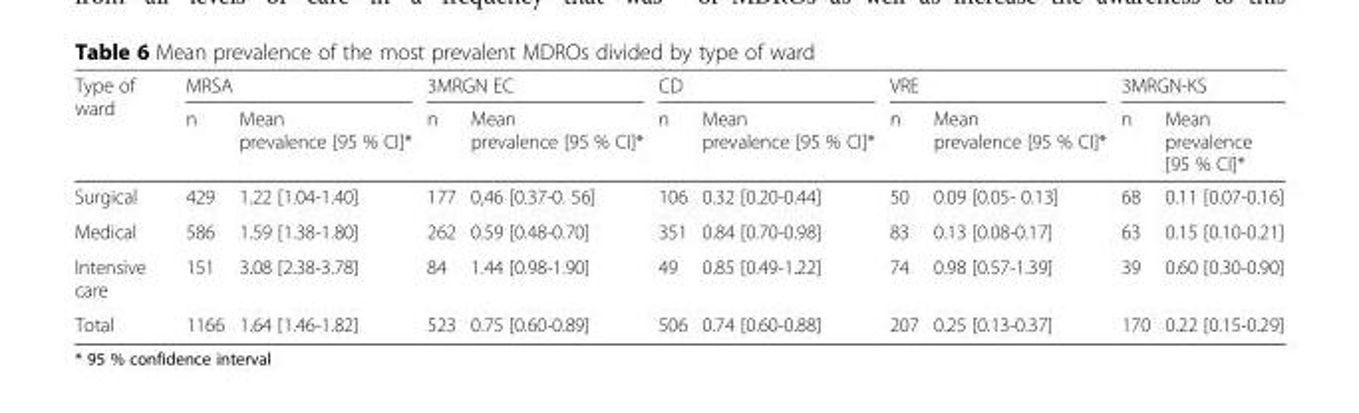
<table><thead><tr><td rowspan="2">Type of ward</td><td colspan="2">MRSA</td><td colspan="2">3MRGN EC</td><td colspan="2">CD</td><td colspan="2">VRE</td><td colspan="2">3MRGN-KS</td></tr><tr><td>n</td><td>Mean prevalence [95 % CI]*</td><td>n</td><td>Mean prevalence [95 % CI]*</td><td>n</td><td>Mean prevalence [95 % CI]*</td><td>n</td><td>Mean prevalence [95 % CI]*</td><td>n</td><td>Mean prevalence [95 % CI]*</td></tr></thead><tbody><tr><td>Surgical</td><td>429</td><td>1.22 [1.04-1.40]</td><td>177</td><td>0,46 [0.37-0. 56]</td><td>106</td><td>0.32 [0.20-0.44]</td><td>50</td><td>0.09 [0.05- 0.13]</td><td>68</td><td>0.11 [0.07-0.16]</td></tr><tr><td>Medical</td><td>586</td><td>1.59 [1.38-1.80]</td><td>262</td><td>0.59 [0.48-0.70]</td><td>351</td><td>0.84 [0.70-0.98]</td><td>83</td><td>0.13 [0.08-0.17]</td><td>63</td><td>0.15 [0.10-0.21]</td></tr><tr><td>Intensive care</td><td>151</td><td>3.08 [2.38-3.78]</td><td>84</td><td>1.44 [0.98-1.90]</td><td>49</td><td>0.85 [0.49-1.22]</td><td>74</td><td>0.98 [0.57-1.39]</td><td>39</td><td>0.60 [0.30-0.90]</td></tr><tr><td>Total</td><td>1166</td><td>1.64 [1.46-1.82]</td><td>523</td><td>0.75 [0.60-0.89]</td><td>506</td><td>0.74 [0.60-0.88]</td><td>207</td><td>0.25 [0.13-0.37]</td><td>170</td><td>0.22 [0.15-0.29]</td></tr></tbody></table>